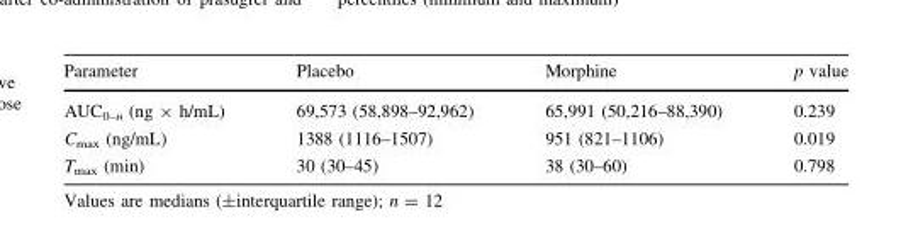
<table><thead><tr><td>Parameter</td><td>Placebo</td><td>Morphine</td><td>p value</td></tr></thead><tbody><tr><td>AUC<sub>0–n</sub> (ng × h/mL)</td><td>69,573 (58,898–92,962)</td><td>65,991 (50,216–88,390)</td><td>0.239</td></tr><tr><td>C<sub>max</sub> (ng/mL)</td><td>1388 (1116–1507)</td><td>951 (821–1106)</td><td>0.019</td></tr><tr><td>T<sub>max</sub> (min)</td><td>30 (30–45)</td><td>38 (30–60)</td><td>0.798</td></tr></tbody></table>